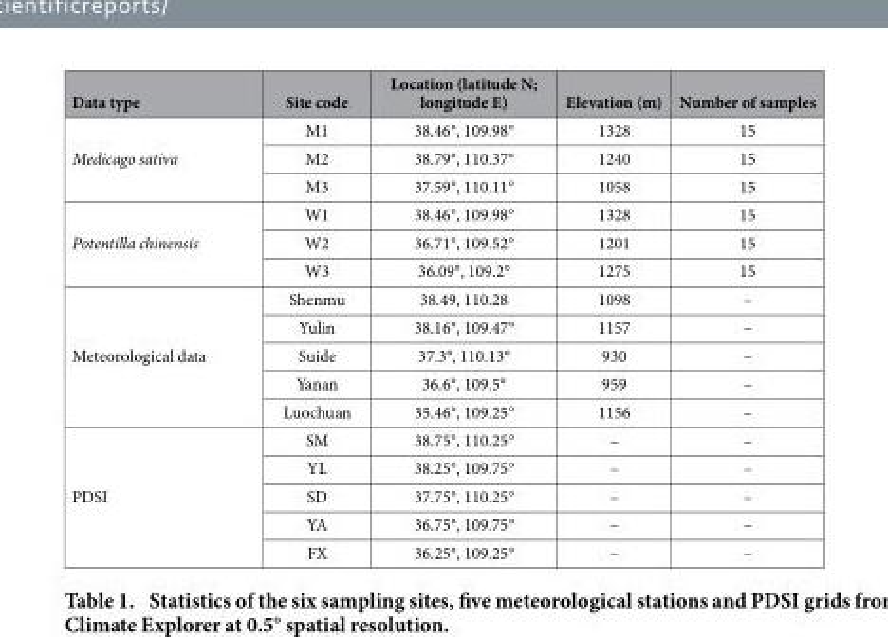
<table><thead><tr><td>Data type</td><td>Site code</td><td>Location (latitude N; longitude E)</td><td>Elevation (m)</td><td>Number of samples</td></tr></thead><tbody><tr><td rowspan="3">Medicago sativa</td><td>M1</td><td>38.46°, 109.98°</td><td>1328</td><td>15</td></tr><tr><td>M2</td><td>38.79°, 110.37°</td><td>1240</td><td>15</td></tr><tr><td>M3</td><td>37.59°, 110.11°</td><td>1058</td><td>15</td></tr><tr><td rowspan="3">Potentilla chinensis</td><td>W1</td><td>38.46°, 109.98°</td><td>1328</td><td>15</td></tr><tr><td>W2</td><td>36.71°, 109.52°</td><td>1201</td><td>15</td></tr><tr><td>W3</td><td>36.09°, 109.2°</td><td>1275</td><td>15</td></tr><tr><td rowspan="5">Meteorological data</td><td>Shenmu</td><td>38.49, 110.28</td><td>1098</td><td>–</td></tr><tr><td>Yulin</td><td>38.16°, 109.47°</td><td>1157</td><td>–</td></tr><tr><td>Suide</td><td>37.3°, 110.13°</td><td>930</td><td>–</td></tr><tr><td>Yanan</td><td>36.6°, 109.5°</td><td>959</td><td>–</td></tr><tr><td>Luochuan</td><td>35.46°, 109.25°</td><td>1156</td><td>–</td></tr><tr><td rowspan="5">PDSI</td><td>SM</td><td>38.75°, 110.25°</td><td>–</td><td>–</td></tr><tr><td>YL</td><td>38.25°, 109.75°</td><td>–</td><td>–</td></tr><tr><td>SD</td><td>37.75°, 110.25°</td><td>–</td><td>–</td></tr><tr><td>YA</td><td>36.75°, 109.75°</td><td>–</td><td>–</td></tr><tr><td>FX</td><td>36.25°, 109.25°</td><td>–</td><td>–</td></tr></tbody></table>